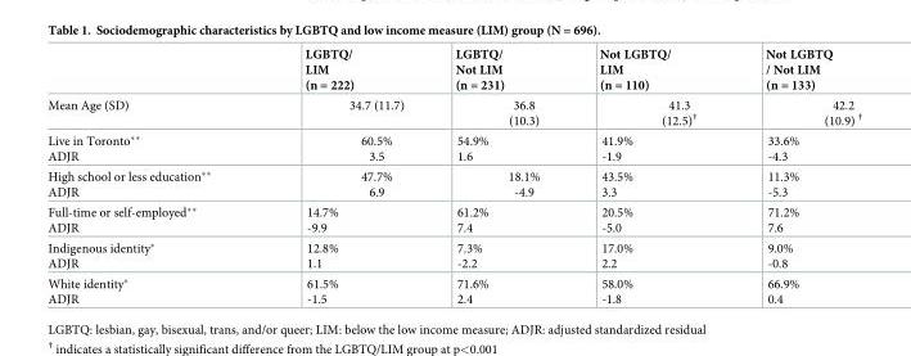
<table><thead><tr><td></td><td>LGBTQ/ LIM (n = 222)</td><td>LGBTQ/ Not LIM (n = 231)</td><td>Not LGBTQ/ LIM (n = 110)</td><td>Not LGBTQ / Not LIM (n = 133)</td></tr></thead><tbody><tr><td>Mean Age (SD)</td><td>34.7 (11.7)</td><td>36.8 (10.3)</td><td>41.3 (12.5)<sup>†</sup></td><td>42.2 (10.9) <sup>†</sup></td></tr><tr><td>Live in Toronto** ADJR</td><td>60.5% 3.5</td><td>54.9% 1.6</td><td>41.9% -1.9</td><td>33.6% -4.3</td></tr><tr><td>High school or less education** ADJR</td><td>47.7% 6.9</td><td>18.1% -4.9</td><td>43.5% 3.3</td><td>11.3% -5.3</td></tr><tr><td>Full-time or self-employed** ADJR</td><td>14.7% -9.9</td><td>61.2% 7.4</td><td>20.5% -5.0</td><td>71.2% 7.6</td></tr><tr><td>Indigenous identity* ADJR</td><td>12.8% 1.1</td><td>7.3% -2.2</td><td>17.0% 2.2</td><td>9.0% -0.8</td></tr><tr><td>White identity* ADJR</td><td>61.5% -1.5</td><td>71.6% 2.4</td><td>58.0% -1.8</td><td>66.9% 0.4</td></tr></tbody></table>